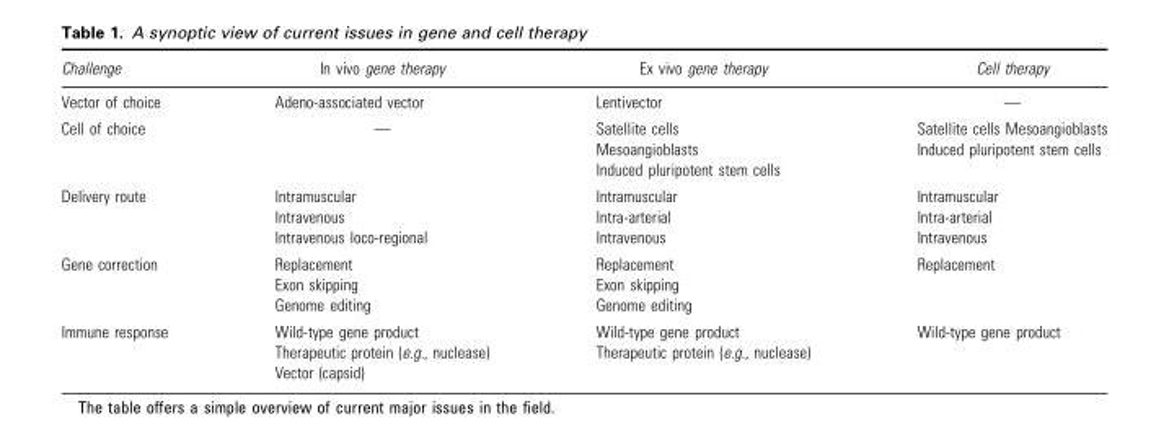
<table><thead><tr><td>Challenge</td><td>In vivo gene therapy</td><td>Ex vivo gene therapy</td><td>Cell therapy</td></tr></thead><tbody><tr><td>Vector of choice</td><td>Adeno-associated vector</td><td>Lentivector</td><td>—</td></tr><tr><td rowspan="3">Cell of choice</td><td rowspan="3">—</td><td>Satellite cells</td><td>Satellite cells Mesoangioblasts</td></tr><tr><td>Mesoangioblasts</td><td>Induced pluripotent stem cells</td></tr><tr><td>Induced pluripotent stem cells</td><td></td></tr><tr><td rowspan="3">Delivery route</td><td>Intramuscular</td><td>Intramuscular</td><td>Intramuscular</td></tr><tr><td>Intravenous</td><td>Intra-arterial</td><td>Intra-arterial</td></tr><tr><td>Intravenous loco-regional</td><td>Intravenous</td><td>Intravenous</td></tr><tr><td rowspan="3">Gene correction</td><td>Replacement</td><td>Replacement</td><td>Replacement</td></tr><tr><td>Exon skipping</td><td>Exon skipping</td><td rowspan="2"></td></tr><tr><td>Genome editing</td><td>Genome editing</td></tr><tr><td rowspan="3">Immune response</td><td>Wild-type gene product</td><td>Wild-type gene product</td><td rowspan="3">Wild-type gene product</td></tr><tr><td>Therapeutic protein (e.g., nuclease)</td><td>Therapeutic protein (e.g., nuclease)</td></tr><tr><td>Vector (capsid)</td><td></td></tr></tbody></table>